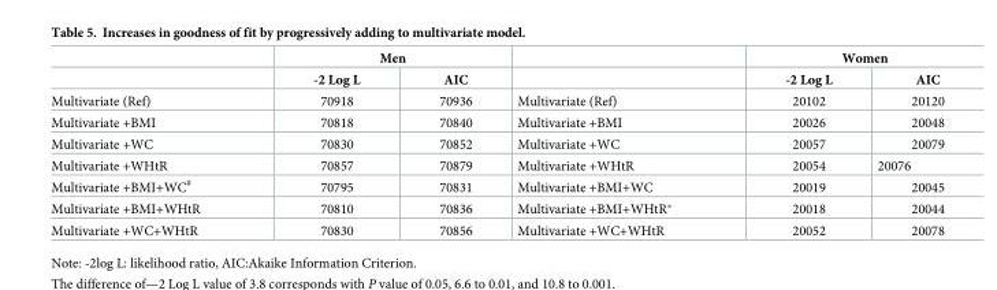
<table><thead><tr><td rowspan="2"></td><td colspan="2">Men</td><td rowspan="2"></td><td colspan="2">Women</td></tr><tr><td>-2 Log L</td><td>AIC</td><td>-2 Log L</td><td>AIC</td></tr></thead><tbody><tr><td>Multivariate (Ref)</td><td>70918</td><td>70936</td><td>Multivariate (Ref)</td><td>20102</td><td>20120</td></tr><tr><td>Multivariate +BMI</td><td>70818</td><td>70840</td><td>Multivariate +BMI</td><td>20026</td><td>20048</td></tr><tr><td>Multivariate +WC</td><td>70830</td><td>70852</td><td>Multivariate +WC</td><td>20057</td><td>20079</td></tr><tr><td>Multivariate +WHtR</td><td>70857</td><td>70879</td><td>Multivariate +WHtR</td><td>20054</td><td>20076</td></tr><tr><td>Multivariate +BMI+WC<sup>#</sup></td><td>70795</td><td>70831</td><td>Multivariate +BMI+WC</td><td>20019</td><td>20045</td></tr><tr><td>Multivariate +BMI+WHtR</td><td>70810</td><td>70836</td><td>Multivariate +BMI+WHtR*</td><td>20018</td><td>20044</td></tr><tr><td>Multivariate +WC+WHtR</td><td>70830</td><td>70856</td><td>Multivariate +WC+WHtR</td><td>20052</td><td>20078</td></tr></tbody></table>